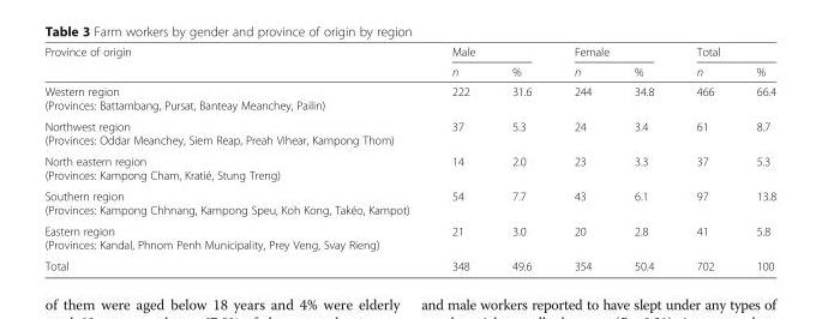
<table><thead><tr><td rowspan="2">Province of origin</td><td colspan="2">Male</td><td colspan="2">Female</td><td colspan="2">Total</td></tr><tr><td>n</td><td>%</td><td>n</td><td>%</td><td>n</td><td>%</td></tr></thead><tbody><tr><td>Western region (Provinces: Battambang, Pursat, Banteay Meanchey, Pailin)</td><td>222</td><td>31.6</td><td>244</td><td>34.8</td><td>466</td><td>66.4</td></tr><tr><td>Northwest region (Provinces: Oddar Meanchey, Siem Reap, Preah Vihear, Kampong Thom)</td><td>37</td><td>5.3</td><td>24</td><td>3.4</td><td>61</td><td>8.7</td></tr><tr><td>North eastern region (Provinces: Kampong Cham, Kratié, Stung Treng)</td><td>14</td><td>2.0</td><td>23</td><td>3.3</td><td>37</td><td>5.3</td></tr><tr><td>Southern region (Provinces: Kampong Chhnang, Kampong Speu, Koh Kong, Takéo, Kampot)</td><td>54</td><td>7.7</td><td>43</td><td>6.1</td><td>97</td><td>13.8</td></tr><tr><td>Eastern region (Provinces: Kandal, Phnom Penh Municipality, Prey Veng, Svay Rieng)</td><td>21</td><td>3.0</td><td>20</td><td>2.8</td><td>41</td><td>5.8</td></tr><tr><td>Total</td><td>348</td><td>49.6</td><td>354</td><td>50.4</td><td>702</td><td>100</td></tr></tbody></table>